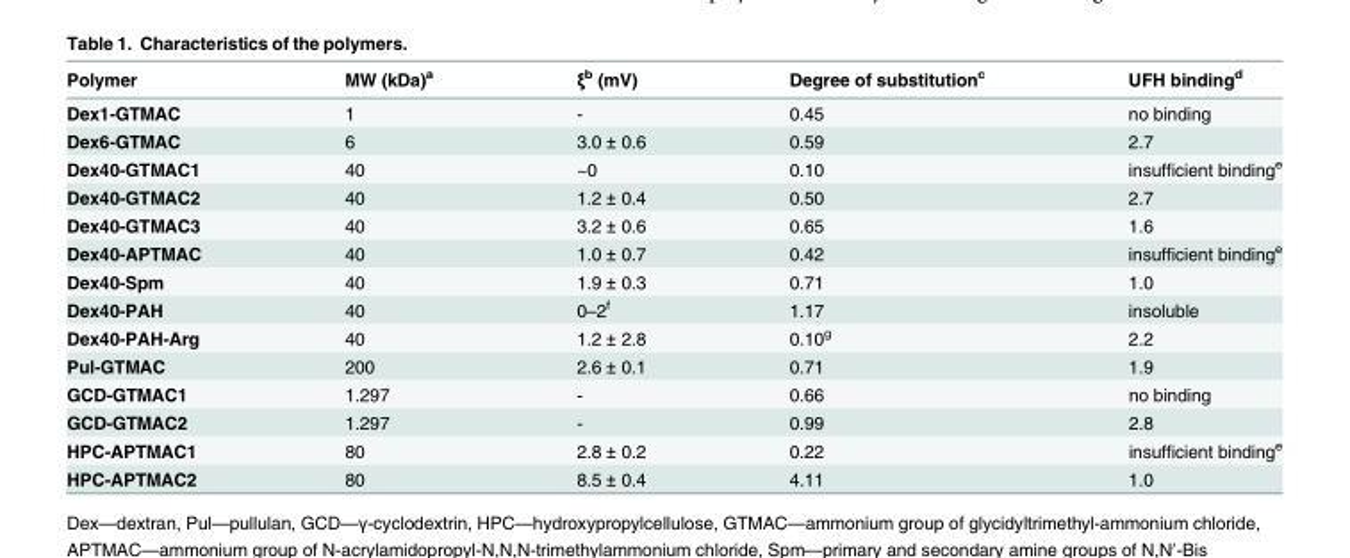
<table><thead><tr><td>Polymer</td><td>MW (kDa)<sup>a</sup></td><td>ξ<sup>b</sup> (mV)</td><td>Degree of substitution<sup>c</sup></td><td>UFH binding<sup>d</sup></td></tr></thead><tbody><tr><td>Dex1-GTMAC</td><td>1</td><td>-</td><td>0.45</td><td>no binding</td></tr><tr><td>Dex6-GTMAC</td><td>6</td><td>3.0 ± 0.6</td><td>0.59</td><td>2.7</td></tr><tr><td>Dex40-GTMAC1</td><td>40</td><td>~0</td><td>0.10</td><td>insufficient binding<sup>e</sup></td></tr><tr><td>Dex40-GTMAC2</td><td>40</td><td>1.2 ± 0.4</td><td>0.50</td><td>2.7</td></tr><tr><td>Dex40-GTMAC3</td><td>40</td><td>3.2 ± 0.6</td><td>0.65</td><td>1.6</td></tr><tr><td>Dex40-APTMAC</td><td>40</td><td>1.0 ± 0.7</td><td>0.42</td><td>insufficient binding<sup>e</sup></td></tr><tr><td>Dex40-Spm</td><td>40</td><td>1.9 ± 0.3</td><td>0.71</td><td>1.0</td></tr><tr><td>Dex40-PAH</td><td>40</td><td>0–2<sup>f</sup></td><td>1.17</td><td>insoluble</td></tr><tr><td>Dex40-PAH-Arg</td><td>40</td><td>1.2 ± 2.8</td><td>0.10<sup>g</sup></td><td>2.2</td></tr><tr><td>Pul-GTMAC</td><td>200</td><td>2.6 ± 0.1</td><td>0.71</td><td>1.9</td></tr><tr><td>GCD-GTMAC1</td><td>1.297</td><td>-</td><td>0.66</td><td>no binding</td></tr><tr><td>GCD-GTMAC2</td><td>1.297</td><td>-</td><td>0.99</td><td>2.8</td></tr><tr><td>HPC-APTMAC1</td><td>80</td><td>2.8 ± 0.2</td><td>0.22</td><td>insufficient binding<sup>e</sup></td></tr><tr><td>HPC-APTMAC2</td><td>80</td><td>8.5 ± 0.4</td><td>4.11</td><td>1.0</td></tr></tbody></table>